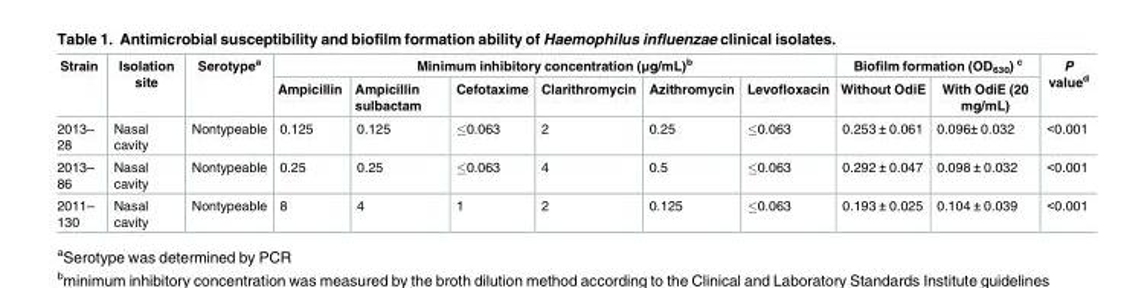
<table><thead><tr><td rowspan="2">Strain</td><td rowspan="2">Isolation site</td><td rowspan="2">Serotype<sup>a</sup></td><td colspan="6">Minimum inhibitory concentration (μg/mL)<sup>b</sup></td><td colspan="2">Biofilm formation (OD<sub>630</sub>) <sup>c</sup></td><td rowspan="2">P value<sup>d</sup></td></tr><tr><td>Ampicillin</td><td>Ampicillin sulbactam</td><td>Cefotaxime</td><td>Clarithromycin</td><td>Azithromycin</td><td>Levofloxacin</td><td>Without OdiE</td><td>With OdiE (20 mg/mL)</td></tr></thead><tbody><tr><td>2013– 28</td><td>Nasal cavity</td><td>Nontypeable</td><td>0.125</td><td>0.125</td><td>≤0.063</td><td>2</td><td>0.25</td><td>≤0.063</td><td>0.253 ± 0.061</td><td>0.096± 0.032</td><td>&lt;0.001</td></tr><tr><td>2013– 86</td><td>Nasal cavity</td><td>Nontypeable</td><td>0.25</td><td>0.25</td><td>≤0.063</td><td>4</td><td>0.5</td><td>≤0.063</td><td>0.292 ± 0.047</td><td>0.098 ± 0.032</td><td>&lt;0.001</td></tr><tr><td>2011– 130</td><td>Nasal cavity</td><td>Nontypeable</td><td>8</td><td>4</td><td>1</td><td>2</td><td>0.125</td><td>≤0.063</td><td>0.193 ± 0.025</td><td>0.104 ± 0.039</td><td>&lt;0.001</td></tr></tbody></table>